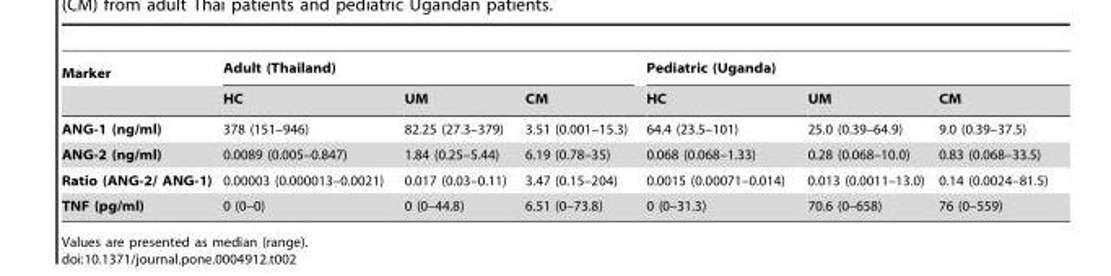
<table><thead><tr><td rowspan="2">Marker</td><td colspan="3">Adult (Thailand)</td><td colspan="3">Pediatric (Uganda)</td></tr><tr><td>HC</td><td>UM</td><td>CM</td><td>HC</td><td>UM</td><td>CM</td></tr></thead><tbody><tr><td>ANG-1 (ng/ml)</td><td>378 (151–946)</td><td>82.25 (27.3–379)</td><td>3.51 (0.001–15.3)</td><td>64.4 (23.5–101)</td><td>25.0 (0.39–64.9)</td><td>9.0 (0.39–37.5)</td></tr><tr><td>ANG-2 (ng/ml)</td><td>0.0089 (0.005–0.847)</td><td>1.84 (0.25–5.44)</td><td>6.19 (0.78–35)</td><td>0.068 (0.068–1.33)</td><td>0.28 (0.068–10.0)</td><td>0.83 (0.068–33.5)</td></tr><tr><td>Ratio (ANG-2/ ANG-1)</td><td>0.00003 (0.000013–0.0021)</td><td>0.017 (0.03–0.11)</td><td>3.47 (0.15–204)</td><td>0.0015 (0.00071–0.014)</td><td>0.013 (0.0011–13.0)</td><td>0.14 (0.0024–81.5)</td></tr><tr><td>TNF (pg/ml)</td><td>0 (0–0)</td><td>0 (0–44.8)</td><td>6.51 (0–73.8)</td><td>0 (0–31.3)</td><td>70.6 (0–658)</td><td>76 (0–559)</td></tr></tbody></table>